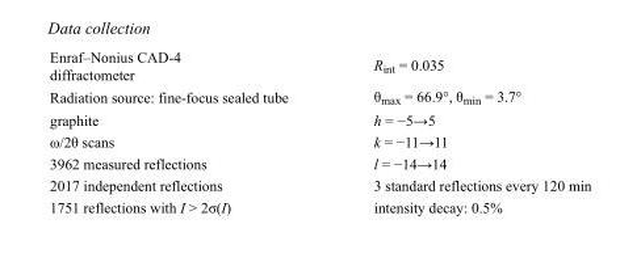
<table><tbody><tr><td>Enraf–Nonius CAD-4 diffractometer</td><td>R<sub>int</sub> = 0.035</td></tr><tr><td>Radiation source: fine-focus sealed tube</td><td>θ<sub>max</sub> = 66.9°, θ<sub>min</sub> = 3.7°</td></tr><tr><td>graphite</td><td>h = −5→5</td></tr><tr><td>ω/2θ scans</td><td>k = −11→11</td></tr><tr><td>3962 measured reflections</td><td>l = −14→14</td></tr><tr><td>2017 independent reflections</td><td>3 standard reflections every 120 min</td></tr><tr><td>1751 reflections with I &gt; 2σ(I)</td><td>intensity decay: 0.5%</td></tr></tbody></table>